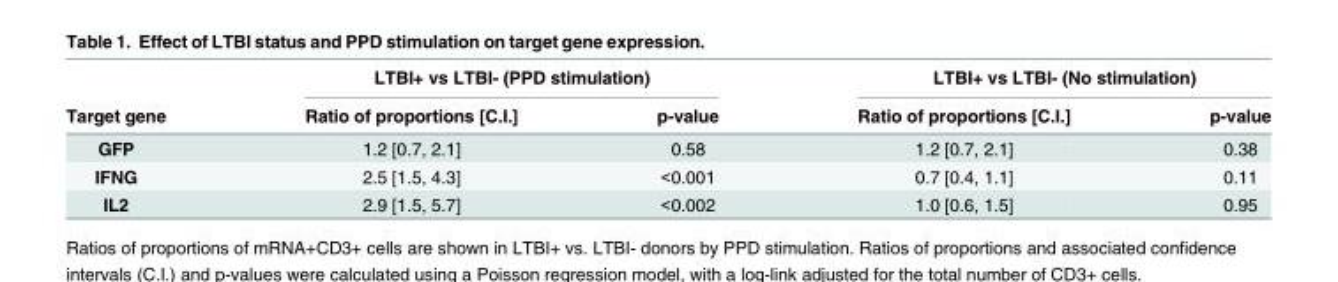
<table><thead><tr><td rowspan="2">Target gene</td><td colspan="2">LTBI+ vs LTBI- (PPD stimulation)</td><td colspan="2">LTBI+ vs LTBI- (No stimulation)</td></tr><tr><td>Ratio of proportions [C.I.]</td><td>p-value</td><td>Ratio of proportions [C.I.]</td><td>p-value</td></tr></thead><tbody><tr><td>GFP</td><td>1.2 [0.7, 2.1]</td><td>0.58</td><td>1.2 [0.7, 2.1]</td><td>0.38</td></tr><tr><td>IFNG</td><td>2.5 [1.5, 4.3]</td><td>&lt;0.001</td><td>0.7 [0.4, 1.1]</td><td>0.11</td></tr><tr><td>IL2</td><td>2.9 [1.5, 5.7]</td><td>&lt;0.002</td><td>1.0 [0.6, 1.5]</td><td>0.95</td></tr></tbody></table>